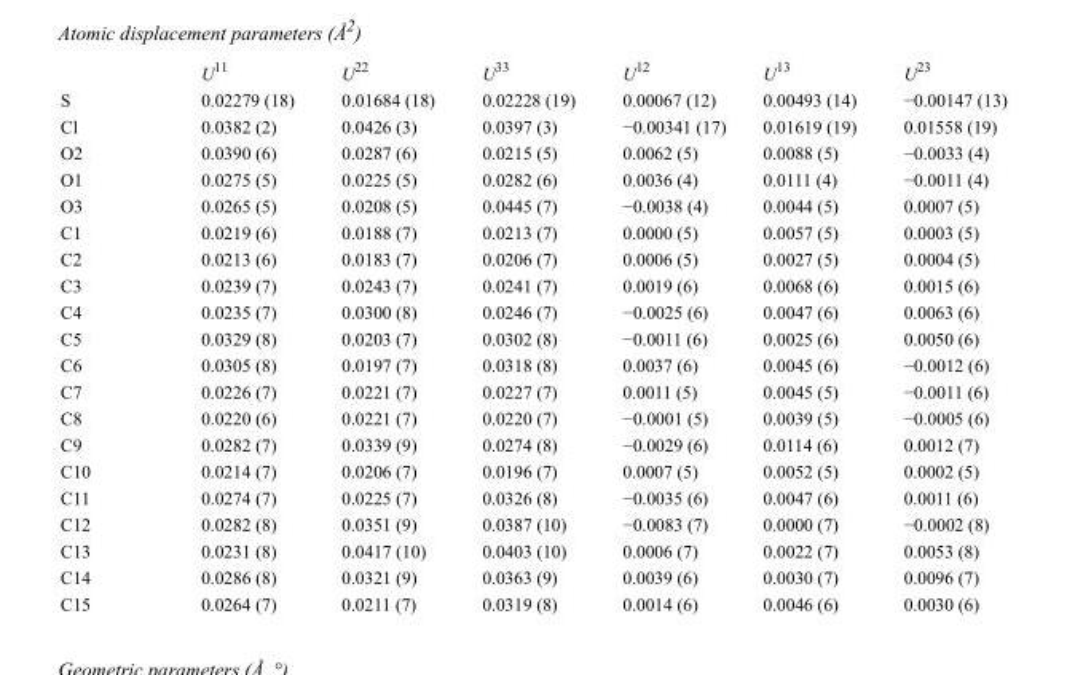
<table><thead><tr><td></td><td>U<sup>11</sup></td><td>U<sup>22</sup></td><td>U<sup>33</sup></td><td>U<sup>12</sup></td><td>U<sup>13</sup></td><td>U<sup>23</sup></td></tr></thead><tbody><tr><td>S</td><td>0.02279 (18)</td><td>0.01684 (18)</td><td>0.02228 (19)</td><td>0.00067 (12)</td><td>0.00493 (14)</td><td>−0.00147 (13)</td></tr><tr><td>Cl</td><td>0.0382 (2)</td><td>0.0426 (3)</td><td>0.0397 (3)</td><td>−0.00341 (17)</td><td>0.01619 (19)</td><td>0.01558 (19)</td></tr><tr><td>O2</td><td>0.0390 (6)</td><td>0.0287 (6)</td><td>0.0215 (5)</td><td>0.0062 (5)</td><td>0.0088 (5)</td><td>−0.0033 (4)</td></tr><tr><td>O1</td><td>0.0275 (5)</td><td>0.0225 (5)</td><td>0.0282 (6)</td><td>0.0036 (4)</td><td>0.0111 (4)</td><td>−0.0011 (4)</td></tr><tr><td>O3</td><td>0.0265 (5)</td><td>0.0208 (5)</td><td>0.0445 (7)</td><td>−0.0038 (4)</td><td>0.0044 (5)</td><td>0.0007 (5)</td></tr><tr><td>C1</td><td>0.0219 (6)</td><td>0.0188 (7)</td><td>0.0213 (7)</td><td>0.0000 (5)</td><td>0.0057 (5)</td><td>0.0003 (5)</td></tr><tr><td>C2</td><td>0.0213 (6)</td><td>0.0183 (7)</td><td>0.0206 (7)</td><td>0.0006 (5)</td><td>0.0027 (5)</td><td>0.0004 (5)</td></tr><tr><td>C3</td><td>0.0239 (7)</td><td>0.0243 (7)</td><td>0.0241 (7)</td><td>0.0019 (6)</td><td>0.0068 (6)</td><td>0.0015 (6)</td></tr><tr><td>C4</td><td>0.0235 (7)</td><td>0.0300 (8)</td><td>0.0246 (7)</td><td>−0.0025 (6)</td><td>0.0047 (6)</td><td>0.0063 (6)</td></tr><tr><td>C5</td><td>0.0329 (8)</td><td>0.0203 (7)</td><td>0.0302 (8)</td><td>−0.0011 (6)</td><td>0.0025 (6)</td><td>0.0050 (6)</td></tr><tr><td>C6</td><td>0.0305 (8)</td><td>0.0197 (7)</td><td>0.0318 (8)</td><td>0.0037 (6)</td><td>0.0045 (6)</td><td>−0.0012 (6)</td></tr><tr><td>C7</td><td>0.0226 (7)</td><td>0.0221 (7)</td><td>0.0227 (7)</td><td>0.0011 (5)</td><td>0.0045 (5)</td><td>−0.0011 (6)</td></tr><tr><td>C8</td><td>0.0220 (6)</td><td>0.0221 (7)</td><td>0.0220 (7)</td><td>−0.0001 (5)</td><td>0.0039 (5)</td><td>−0.0005 (6)</td></tr><tr><td>C9</td><td>0.0282 (7)</td><td>0.0339 (9)</td><td>0.0274 (8)</td><td>−0.0029 (6)</td><td>0.0114 (6)</td><td>0.0012 (7)</td></tr><tr><td>C10</td><td>0.0214 (7)</td><td>0.0206 (7)</td><td>0.0196 (7)</td><td>0.0007 (5)</td><td>0.0052 (5)</td><td>0.0002 (5)</td></tr><tr><td>C11</td><td>0.0274 (7)</td><td>0.0225 (7)</td><td>0.0326 (8)</td><td>−0.0035 (6)</td><td>0.0047 (6)</td><td>0.0011 (6)</td></tr><tr><td>C12</td><td>0.0282 (8)</td><td>0.0351 (9)</td><td>0.0387 (10)</td><td>−0.0083 (7)</td><td>0.0000 (7)</td><td>−0.0002 (8)</td></tr><tr><td>C13</td><td>0.0231 (8)</td><td>0.0417 (10)</td><td>0.0403 (10)</td><td>0.0006 (7)</td><td>0.0022 (7)</td><td>0.0053 (8)</td></tr><tr><td>C14</td><td>0.0286 (8)</td><td>0.0321 (9)</td><td>0.0363 (9)</td><td>0.0039 (6)</td><td>0.0030 (7)</td><td>0.0096 (7)</td></tr><tr><td>C15</td><td>0.0264 (7)</td><td>0.0211 (7)</td><td>0.0319 (8)</td><td>0.0014 (6)</td><td>0.0046 (6)</td><td>0.0030 (6)</td></tr></tbody></table>